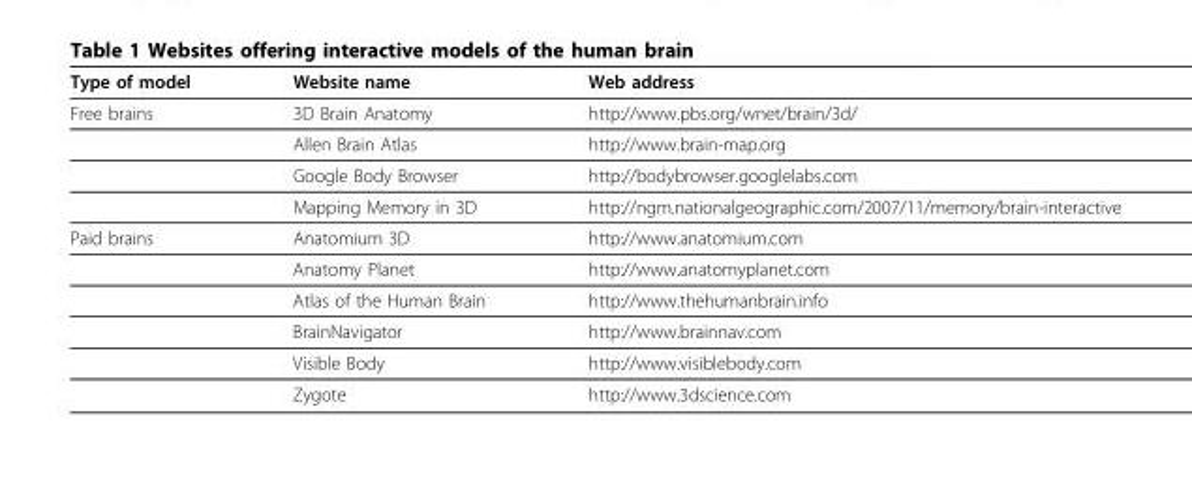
<table><thead><tr><td>Type of model</td><td>Website name</td><td>Web address</td></tr></thead><tbody><tr><td rowspan="4">Free brains</td><td>3D Brain Anatomy</td><td>http://www.pbs.org/wnet/brain/3d/</td></tr><tr><td>Allen Brain Atlas</td><td>http://www.brain-map.org</td></tr><tr><td>Google Body Browser</td><td>http://bodybrowser.googlelabs.com</td></tr><tr><td>Mapping Memory in 3D</td><td>http://ngm.nationalgeographic.com/2007/11/memory/brain-interactive</td></tr><tr><td rowspan="6">Paid brains</td><td>Anatomium 3D</td><td>http://www.anatomium.com</td></tr><tr><td>Anatomy Planet</td><td>http://www.anatomyplanet.com</td></tr><tr><td>Atlas of the Human Brain</td><td>http://www.thehumanbrain.info</td></tr><tr><td>BrainNavigator</td><td>http://www.brainnav.com</td></tr><tr><td>Visible Body</td><td>http://www.visiblebody.com</td></tr><tr><td>Zygote</td><td>http://www.3dscience.com</td></tr></tbody></table>